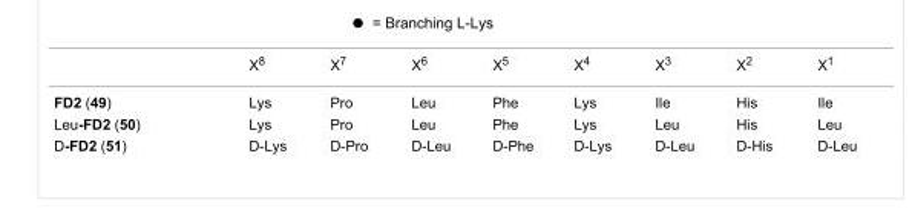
<table><thead><tr><td></td><td>X<sup>8</sup></td><td>X<sup>7</sup></td><td>X<sup>6</sup></td><td>X<sup>5</sup></td><td>X<sup>4</sup></td><td>X<sup>3</sup></td><td>X<sup>2</sup></td><td>X<sup>1</sup></td></tr></thead><tbody><tr><td>FD2 (49)</td><td>Lys</td><td>Pro</td><td>Leu</td><td>Phe</td><td>Lys</td><td>Ile</td><td>His</td><td>Ile</td></tr><tr><td>Leu-FD2 (50)</td><td>Lys</td><td>Pro</td><td>Leu</td><td>Phe</td><td>Lys</td><td>Leu</td><td>His</td><td>Leu</td></tr><tr><td>D-FD2 (51)</td><td>D-Lys</td><td>D-Pro</td><td>D-Leu</td><td>D-Phe</td><td>D-Lys</td><td>D-Leu</td><td>D-His</td><td>D-Leu</td></tr></tbody></table>